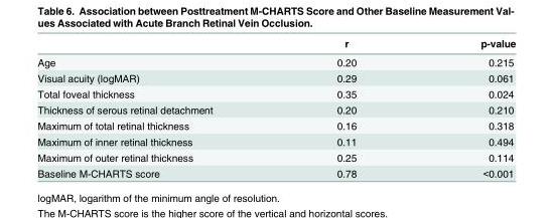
<table><thead><tr><td></td><td>r</td><td>p-value</td></tr></thead><tbody><tr><td>Age</td><td>0.20</td><td>0.215</td></tr><tr><td>Visual acuity (logMAR)</td><td>0.29</td><td>0.061</td></tr><tr><td>Total foveal thickness</td><td>0.35</td><td>0.024</td></tr><tr><td>Thickness of serous retinal detachment</td><td>0.20</td><td>0.210</td></tr><tr><td>Maximum of total retinal thickness</td><td>0.16</td><td>0.318</td></tr><tr><td>Maximum of inner retinal thickness</td><td>0.11</td><td>0.494</td></tr><tr><td>Maximum of outer retinal thickness</td><td>0.25</td><td>0.114</td></tr><tr><td>Baseline M-CHARTS score</td><td>0.78</td><td>&lt;0.001</td></tr></tbody></table>